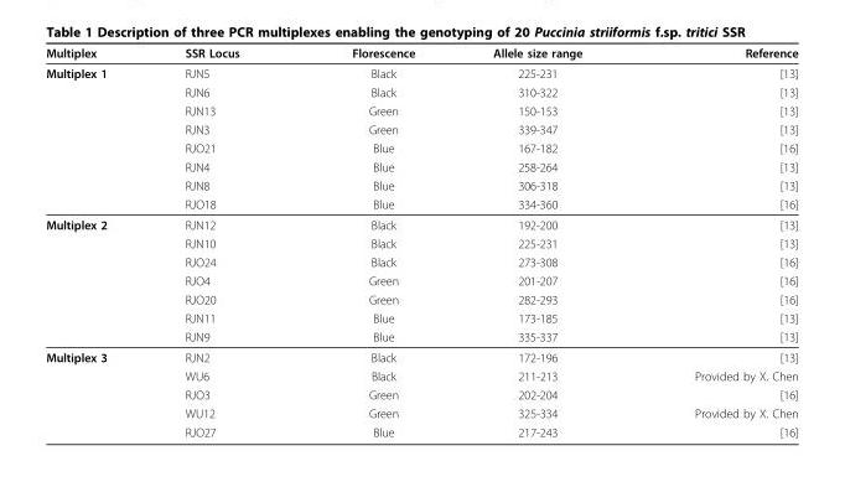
<table><thead><tr><td>Multiplex</td><td>SSR Locus</td><td>Florescence</td><td>Allele size range</td><td>Reference</td></tr></thead><tbody><tr><td rowspan="8">Multiplex 1</td><td>RJN5</td><td>Black</td><td>225-231</td><td>[13]</td></tr><tr><td>RJN6</td><td>Black</td><td>310-322</td><td>[13]</td></tr><tr><td>RJN13</td><td>Green</td><td>150-153</td><td>[13]</td></tr><tr><td>RJN3</td><td>Green</td><td>339-347</td><td>[13]</td></tr><tr><td>RJO21</td><td>Blue</td><td>167-182</td><td>[16]</td></tr><tr><td>RJN4</td><td>Blue</td><td>258-264</td><td>[13]</td></tr><tr><td>RJN8</td><td>Blue</td><td>306-318</td><td>[13]</td></tr><tr><td>RJO18</td><td>Blue</td><td>334-360</td><td>[16]</td></tr><tr><td rowspan="7">Multiplex 2</td><td>RJN12</td><td>Black</td><td>192-200</td><td>[13]</td></tr><tr><td>RJN10</td><td>Black</td><td>225-231</td><td>[13]</td></tr><tr><td>RJO24</td><td>Black</td><td>273-308</td><td>[16]</td></tr><tr><td>RJO4</td><td>Green</td><td>201-207</td><td>[16]</td></tr><tr><td>RJO20</td><td>Green</td><td>282-293</td><td>[16]</td></tr><tr><td>RJN11</td><td>Blue</td><td>173-185</td><td>[13]</td></tr><tr><td>RJN9</td><td>Blue</td><td>335-337</td><td>[13]</td></tr><tr><td rowspan="5">Multiplex 3</td><td>RJN2</td><td>Black</td><td>172-196</td><td>[13]</td></tr><tr><td>WU6</td><td>Black</td><td>211-213</td><td>Provided by X. Chen</td></tr><tr><td>RJO3</td><td>Green</td><td>202-204</td><td>[16]</td></tr><tr><td>WU12</td><td>Green</td><td>325-334</td><td>Provided by X. Chen</td></tr><tr><td>RJO27</td><td>Blue</td><td>217-243</td><td>[16]</td></tr></tbody></table>